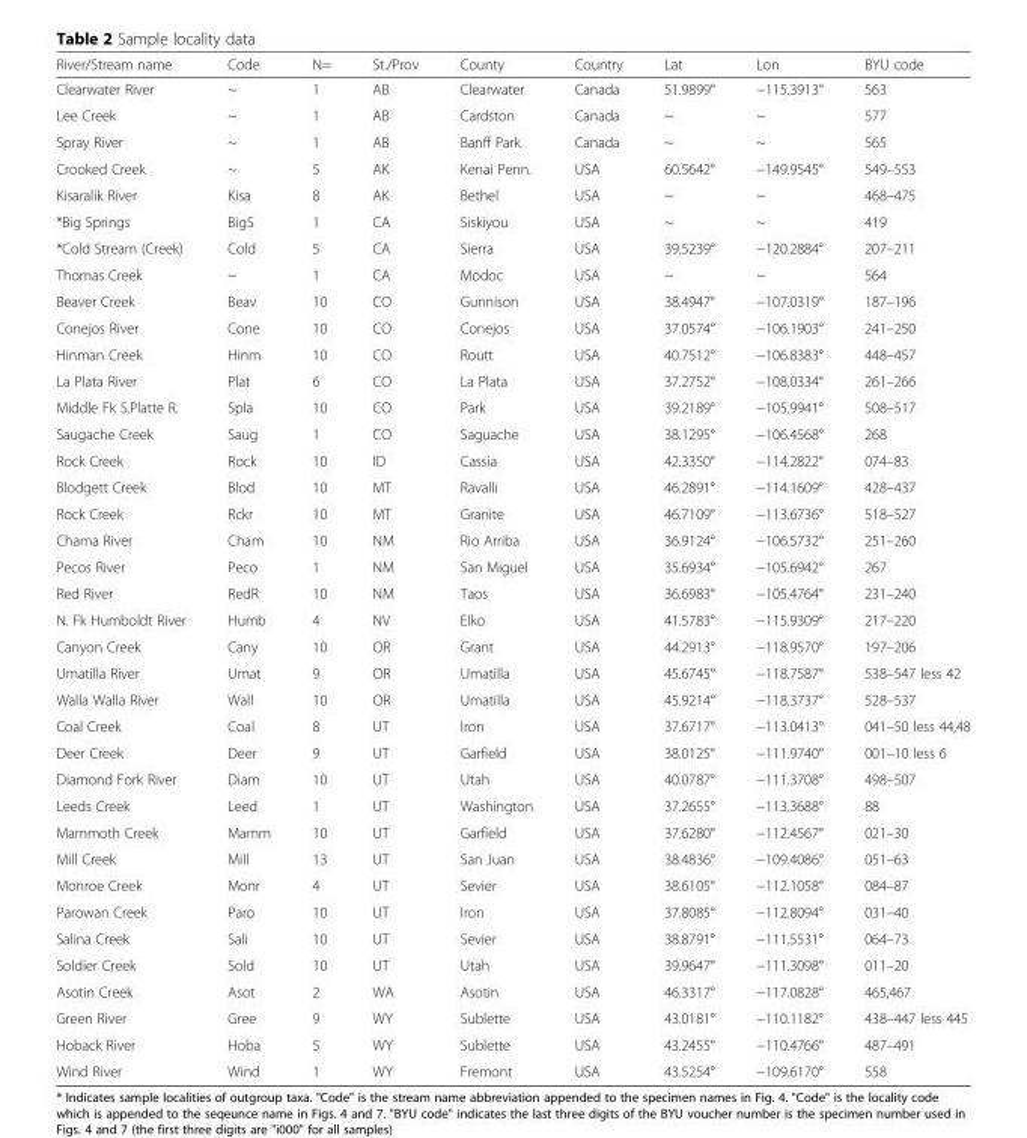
<table><thead><tr><td>River/Stream name</td><td>Code</td><td>N=</td><td>St./Prov</td><td>County</td><td>Country</td><td>Lat</td><td>Lon</td><td>BYU code</td></tr></thead><tbody><tr><td>Clearwater River</td><td>~</td><td>1</td><td>AB</td><td>Clearwater</td><td>Canada</td><td>51.9899°</td><td>−115.3913°</td><td>563</td></tr><tr><td>Lee Creek</td><td>~</td><td>1</td><td>AB</td><td>Cardston</td><td>Canada</td><td>~</td><td>~</td><td>577</td></tr><tr><td>Spray River</td><td>~</td><td>1</td><td>AB</td><td>Banff Park</td><td>Canada</td><td>~</td><td>~</td><td>565</td></tr><tr><td>Crooked Creek</td><td>~</td><td>5</td><td>AK</td><td>Kenai Penn.</td><td>USA</td><td>60.5642°</td><td>−149.9545°</td><td>549–553</td></tr><tr><td>Kisaralik River</td><td>Kisa</td><td>8</td><td>AK</td><td>Bethel</td><td>USA</td><td>~</td><td>~</td><td>468–475</td></tr><tr><td>*Big Springs</td><td>BigS</td><td>1</td><td>CA</td><td>Siskiyou</td><td>USA</td><td>~</td><td>~</td><td>419</td></tr><tr><td>*Cold Stream (Creek)</td><td>Cold</td><td>5</td><td>CA</td><td>Sierra</td><td>USA</td><td>39.5239°</td><td>−120.2884°</td><td>207–211</td></tr><tr><td>Thomas Creek</td><td>~</td><td>1</td><td>CA</td><td>Modoc</td><td>USA</td><td>~</td><td>~</td><td>564</td></tr><tr><td>Beaver Creek</td><td>Beav</td><td>10</td><td>CO</td><td>Gunnison</td><td>USA</td><td>38.4947°</td><td>−107.0319°</td><td>187–196</td></tr><tr><td>Conejos River</td><td>Cone</td><td>10</td><td>CO</td><td>Conejos</td><td>USA</td><td>37.0574°</td><td>−106.1903°</td><td>241–250</td></tr><tr><td>Hinman Creek</td><td>Hinm</td><td>10</td><td>CO</td><td>Routt</td><td>USA</td><td>40.7512°</td><td>−106.8383°</td><td>448–457</td></tr><tr><td>La Plata River</td><td>Plat</td><td>6</td><td>CO</td><td>La Plata</td><td>USA</td><td>37.2752°</td><td>−108.0334°</td><td>261–266</td></tr><tr><td>Middle Fk S.Platte R.</td><td>Spla</td><td>10</td><td>CO</td><td>Park</td><td>USA</td><td>39.2189°</td><td>−105.9941°</td><td>508–517</td></tr><tr><td>Saugache Creek</td><td>Saug</td><td>1</td><td>CO</td><td>Saguache</td><td>USA</td><td>38.1295°</td><td>−106.4568°</td><td>268</td></tr><tr><td>Rock Creek</td><td>Rock</td><td>10</td><td>ID</td><td>Cassia</td><td>USA</td><td>42.3350°</td><td>−114.2822°</td><td>074–83</td></tr><tr><td>Blodgett Creek</td><td>Blod</td><td>10</td><td>MT</td><td>Ravalli</td><td>USA</td><td>46.2891°</td><td>−114.1609°</td><td>428–437</td></tr><tr><td>Rock Creek</td><td>Rckr</td><td>10</td><td>MT</td><td>Granite</td><td>USA</td><td>46.7109°</td><td>−113.6736°</td><td>518–527</td></tr><tr><td>Chama River</td><td>Cham</td><td>10</td><td>NM</td><td>Rio Arriba</td><td>USA</td><td>36.9124°</td><td>−106.5732°</td><td>251–260</td></tr><tr><td>Pecos River</td><td>Peco</td><td>1</td><td>NM</td><td>San Miguel</td><td>USA</td><td>35.6934°</td><td>−105.6942°</td><td>267</td></tr><tr><td>Red River</td><td>RedR</td><td>10</td><td>NM</td><td>Taos</td><td>USA</td><td>36.6983°</td><td>−105.4764°</td><td>231–240</td></tr><tr><td>N. Fk Humboldt River</td><td>Humb</td><td>4</td><td>NV</td><td>Elko</td><td>USA</td><td>41.5783°</td><td>−115.9309°</td><td>217–220</td></tr><tr><td>Canyon Creek</td><td>Cany</td><td>10</td><td>OR</td><td>Grant</td><td>USA</td><td>44.2913°</td><td>−118.9570°</td><td>197–206</td></tr><tr><td>Umatilla River</td><td>Umat</td><td>9</td><td>OR</td><td>Umatilla</td><td>USA</td><td>45.6745°</td><td>−118.7587°</td><td>538–547 less 42</td></tr><tr><td>Walla Walla River</td><td>Wall</td><td>10</td><td>OR</td><td>Umatilla</td><td>USA</td><td>45.9214°</td><td>−118.3737°</td><td>528–537</td></tr><tr><td>Coal Creek</td><td>Coal</td><td>8</td><td>UT</td><td>Iron</td><td>USA</td><td>37.6717°</td><td>−113.0413°</td><td>041–50 less 44,48</td></tr><tr><td>Deer Creek</td><td>Deer</td><td>9</td><td>UT</td><td>Garfield</td><td>USA</td><td>38.0125°</td><td>−111.9740°</td><td>001–10 less 6</td></tr><tr><td>Diamond Fork River</td><td>Diam</td><td>10</td><td>UT</td><td>Utah</td><td>USA</td><td>40.0787°</td><td>−111.3708°</td><td>498–507</td></tr><tr><td>Leeds Creek</td><td>Leed</td><td>1</td><td>UT</td><td>Washington</td><td>USA</td><td>37.2655°</td><td>−113.3688°</td><td>88</td></tr><tr><td>Mammoth Creek</td><td>Mamm</td><td>10</td><td>UT</td><td>Garfield</td><td>USA</td><td>37.6280°</td><td>−112.4567°</td><td>021–30</td></tr><tr><td>Mill Creek</td><td>Mill</td><td>13</td><td>UT</td><td>San Juan</td><td>USA</td><td>38.4836°</td><td>−109.4086°</td><td>051–63</td></tr><tr><td>Monroe Creek</td><td>Monr</td><td>4</td><td>UT</td><td>Sevier</td><td>USA</td><td>38.6105°</td><td>−112.1058°</td><td>084–87</td></tr><tr><td>Parowan Creek</td><td>Paro</td><td>10</td><td>UT</td><td>Iron</td><td>USA</td><td>37.8085°</td><td>−112.8094°</td><td>031–40</td></tr><tr><td>Salina Creek</td><td>Sali</td><td>10</td><td>UT</td><td>Sevier</td><td>USA</td><td>38.8791°</td><td>−111.5531°</td><td>064–73</td></tr><tr><td>Soldier Creek</td><td>Sold</td><td>10</td><td>UT</td><td>Utah</td><td>USA</td><td>39.9647°</td><td>−111.3098°</td><td>011–20</td></tr><tr><td>Asotin Creek</td><td>Asot</td><td>2</td><td>WA</td><td>Asotin</td><td>USA</td><td>46.3317°</td><td>−117.0828°</td><td>465,467</td></tr><tr><td>Green River</td><td>Gree</td><td>9</td><td>WY</td><td>Sublette</td><td>USA</td><td>43.0181°</td><td>−110.1182°</td><td>438–447 less 445</td></tr><tr><td>Hoback River</td><td>Hoba</td><td>5</td><td>WY</td><td>Sublette</td><td>USA</td><td>43.2455°</td><td>−110.4766°</td><td>487–491</td></tr><tr><td>Wind River</td><td>Wind</td><td>1</td><td>WY</td><td>Fremont</td><td>USA</td><td>43.5254°</td><td>−109.6170°</td><td>558</td></tr></tbody></table>